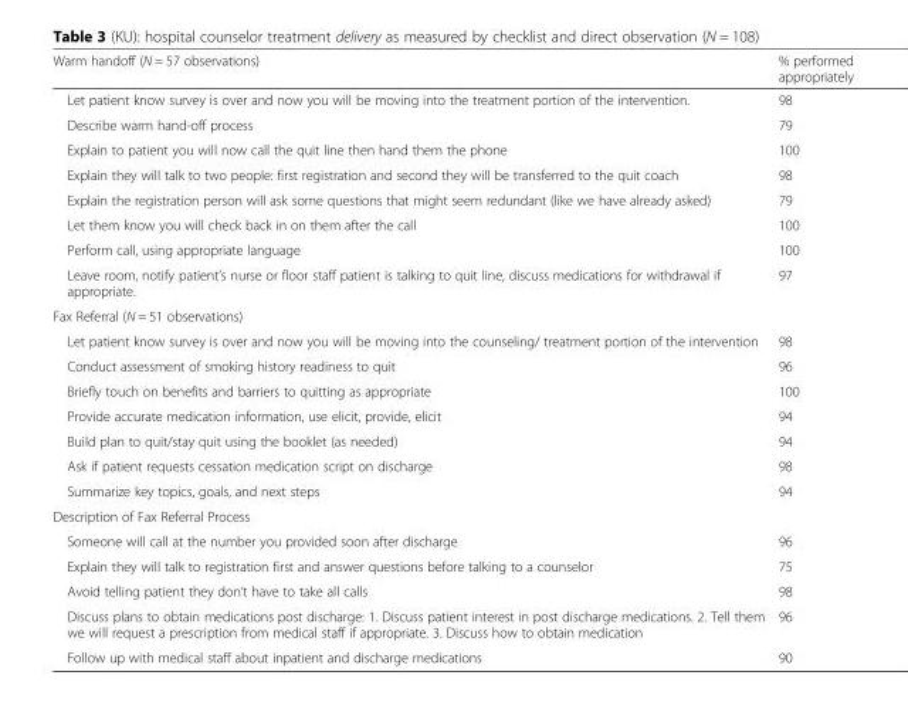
<table><thead><tr><td>Warm handoff (N = 57 observations)</td><td>% performed appropriately</td></tr></thead><tbody><tr><td>Let patient know survey is over and now you will be moving into the treatment portion of the intervention.</td><td>98</td></tr><tr><td>Describe warm hand-off process</td><td>79</td></tr><tr><td>Explain to patient you will now call the quit line then hand them the phone</td><td>100</td></tr><tr><td>Explain they will talk to two people: first registration and second they will be transferred to the quit coach</td><td>98</td></tr><tr><td>Explain the registration person will ask some questions that might seem redundant (like we have already asked)</td><td>79</td></tr><tr><td>Let them know you will check back in on them after the call</td><td>100</td></tr><tr><td>Perform call, using appropriate language</td><td>100</td></tr><tr><td>Leave room, notify patient’s nurse or floor staff patient is talking to quit line, discuss medications for withdrawal if appropriate.</td><td>97</td></tr><tr><td colspan="2">Fax Referral (N = 51 observations)</td></tr><tr><td>Let patient know survey is over and now you will be moving into the counseling/ treatment portion of the intervention</td><td>98</td></tr><tr><td>Conduct assessment of smoking history readiness to quit</td><td>96</td></tr><tr><td>Briefly touch on benefits and barriers to quitting as appropriate</td><td>100</td></tr><tr><td>Provide accurate medication information, use elicit, provide, elicit</td><td>94</td></tr><tr><td>Build plan to quit/stay quit using the booklet (as needed)</td><td>94</td></tr><tr><td>Ask if patient requests cessation medication script on discharge</td><td>98</td></tr><tr><td>Summarize key topics, goals, and next steps</td><td>94</td></tr><tr><td colspan="2">Description of Fax Referral Process</td></tr><tr><td>Someone will call at the number you provided soon after discharge</td><td>96</td></tr><tr><td>Explain they will talk to registration first and answer questions before talking to a counselor</td><td>75</td></tr><tr><td>Avoid telling patient they don’t have to take all calls</td><td>98</td></tr><tr><td>Discuss plans to obtain medications post discharge: 1. Discuss patient interest in post discharge medications. 2. Tell them we will request a prescription from medical staff if appropriate. 3. Discuss how to obtain medication</td><td>96</td></tr><tr><td>Follow up with medical staff about inpatient and discharge medications</td><td>90</td></tr></tbody></table>